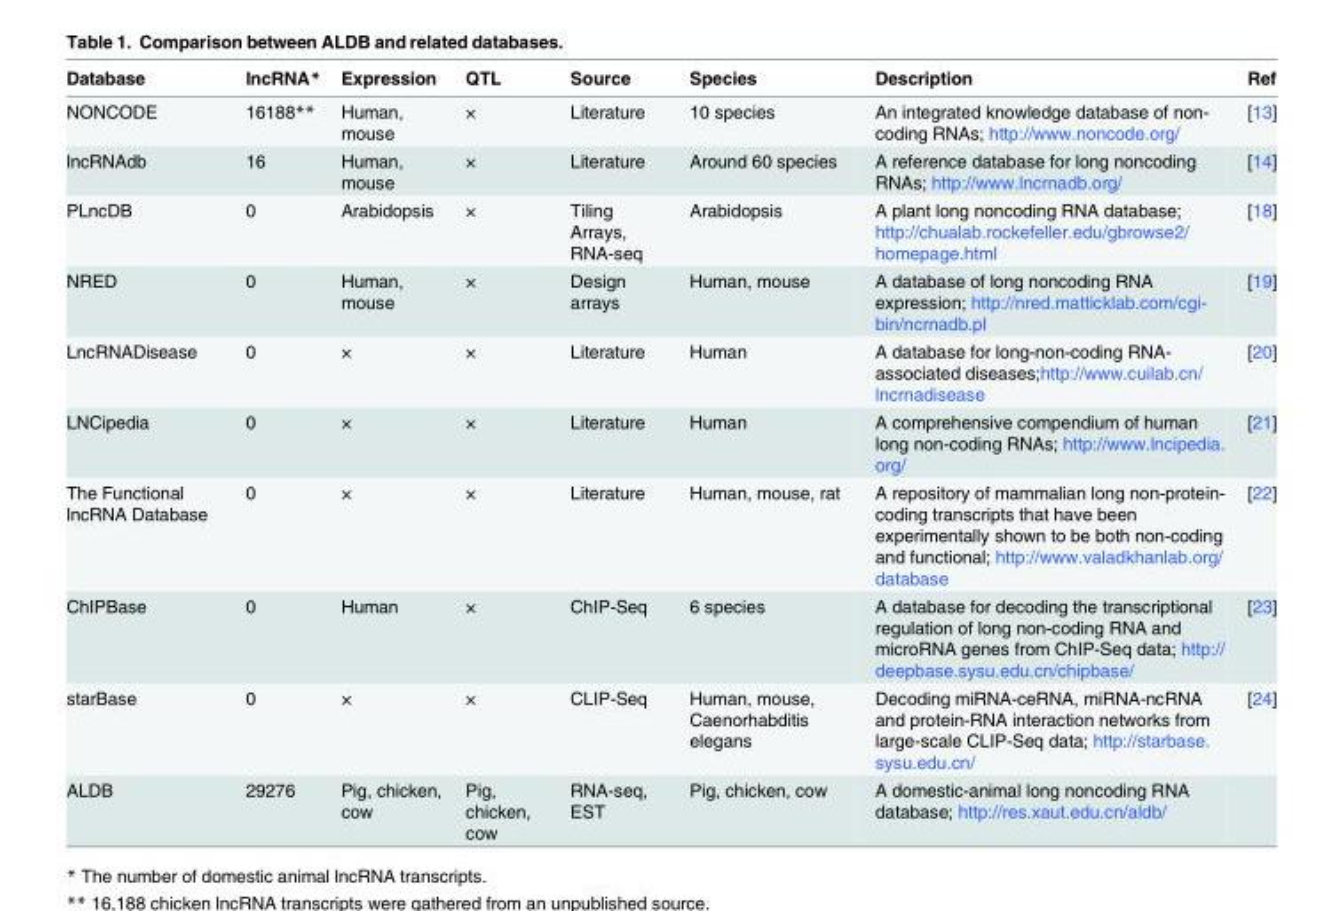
<table><thead><tr><td>Database</td><td>lncRNA*</td><td>Expression</td><td>QTL</td><td>Source</td><td>Species</td><td>Description</td><td>Ref</td></tr></thead><tbody><tr><td>NONCODE</td><td>16188**</td><td>Human, mouse</td><td>×</td><td>Literature</td><td>10 species</td><td>An integrated knowledge database of non- coding RNAs; http://www.noncode.org/</td><td>[13]</td></tr><tr><td>lncRNAdb</td><td>16</td><td>Human, mouse</td><td>×</td><td>Literature</td><td>Around 60 species</td><td>A reference database for long noncoding RNAs; http://www.lncrnadb.org/</td><td>[14]</td></tr><tr><td>PLncDB</td><td>0</td><td>Arabidopsis</td><td>×</td><td>Tiling Arrays, RNA-seq</td><td>Arabidopsis</td><td>A plant long noncoding RNA database; http://chualab.rockefeller.edu/gbrowse2/ homepage.html</td><td>[18]</td></tr><tr><td>NRED</td><td>0</td><td>Human, mouse</td><td>×</td><td>Design arrays</td><td>Human, mouse</td><td>A database of long noncoding RNA expression; http://nred.matticklab.com/cgi- bin/ncrnadb.pl</td><td>[19]</td></tr><tr><td>LncRNADisease</td><td>0</td><td>×</td><td>×</td><td>Literature</td><td>Human</td><td>A database for long-non-coding RNA- associated diseases;http://www.cuilab.cn/ lncrnadisease</td><td>[20]</td></tr><tr><td>LNCipedia</td><td>0</td><td>×</td><td>×</td><td>Literature</td><td>Human</td><td>A comprehensive compendium of human long non-coding RNAs; http://www.lncipedia. org/</td><td>[21]</td></tr><tr><td>The Functional lncRNA Database</td><td>0</td><td>×</td><td>×</td><td>Literature</td><td>Human, mouse, rat</td><td>A repository of mammalian long non-protein- coding transcripts that have been experimentally shown to be both non-coding and functional; http://www.valadkhanlab.org/ database</td><td>[22]</td></tr><tr><td>ChIPBase</td><td>0</td><td>Human</td><td>×</td><td>ChIP-Seq</td><td>6 species</td><td>A database for decoding the transcriptional regulation of long non-coding RNA and microRNA genes from ChIP-Seq data; http:// deepbase.sysu.edu.cn/chipbase/</td><td>[23]</td></tr><tr><td>starBase</td><td>0</td><td>×</td><td>×</td><td>CLIP-Seq</td><td>Human, mouse, Caenorhabditis elegans</td><td>Decoding miRNA-ceRNA, miRNA-ncRNA and protein-RNA interaction networks from large-scale CLIP-Seq data; http://starbase. sysu.edu.cn/</td><td>[24]</td></tr><tr><td>ALDB</td><td>29276</td><td>Pig, chicken, cow</td><td>Pig, chicken, cow</td><td>RNA-seq, EST</td><td>Pig, chicken, cow</td><td>A domestic-animal long noncoding RNA database; http://res.xaut.edu.cn/aldb/</td><td></td></tr></tbody></table>